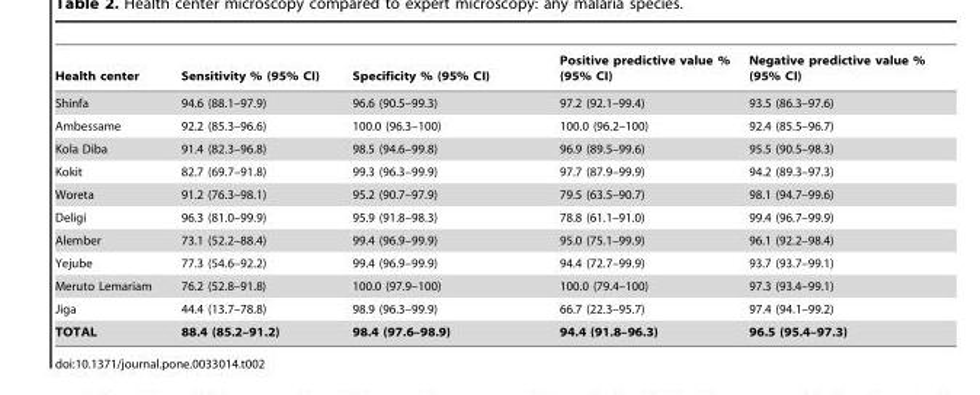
<table><thead><tr><td>Health center</td><td>Sensitivity % (95% CI)</td><td>Specificity % (95% CI)</td><td>Positive predictive value % (95% CI)</td><td>Negative predictive value % (95% CI)</td></tr></thead><tbody><tr><td>Shinfa</td><td>94.6 (88.1–97.9)</td><td>96.6 (90.5–99.3)</td><td>97.2 (92.1–99.4)</td><td>93.5 (86.3–97.6)</td></tr><tr><td>Ambessame</td><td>92.2 (85.3–96.6)</td><td>100.0 (96.3–100)</td><td>100.0 (96.2–100)</td><td>92.4 (85.5–96.7)</td></tr><tr><td>Kola Diba</td><td>91.4 (82.3–96.8)</td><td>98.5 (94.6–99.8)</td><td>96.9 (89.5–99.6)</td><td>95.5 (90.5–98.3)</td></tr><tr><td>Kokit</td><td>82.7 (69.7–91.8)</td><td>99.3 (96.3–99.9)</td><td>97.7 (87.9–99.9)</td><td>94.2 (89.3–97.3)</td></tr><tr><td>Woreta</td><td>91.2 (76.3–98.1)</td><td>95.2 (90.7–97.9)</td><td>79.5 (63.5–90.7)</td><td>98.1 (94.7–99.6)</td></tr><tr><td>Deligi</td><td>96.3 (81.0–99.9)</td><td>95.9 (91.8–98.3)</td><td>78.8 (61.1–91.0)</td><td>99.4 (96.7–99.9)</td></tr><tr><td>Alember</td><td>73.1 (52.2–88.4)</td><td>99.4 (96.9–99.9)</td><td>95.0 (75.1–99.9)</td><td>96.1 (92.2–98.4)</td></tr><tr><td>Yejube</td><td>77.3 (54.6–92.2)</td><td>99.4 (96.9–99.9)</td><td>94.4 (72.7–99.9)</td><td>93.7 (93.7–99.1)</td></tr><tr><td>Meruto Lemariam</td><td>76.2 (52.8–91.8)</td><td>100.0 (97.9–100)</td><td>100.0 (79.4–100)</td><td>97.3 (93.4–99.1)</td></tr><tr><td>Jiga</td><td>44.4 (13.7–78.8)</td><td>98.9 (96.3–99.9)</td><td>66.7 (22.3–95.7)</td><td>97.4 (94.1–99.2)</td></tr><tr><td>TOTAL</td><td>88.4 (85.2–91.2)</td><td>98.4 (97.6–98.9)</td><td>94.4 (91.8–96.3)</td><td>96.5 (95.4–97.3)</td></tr></tbody></table>